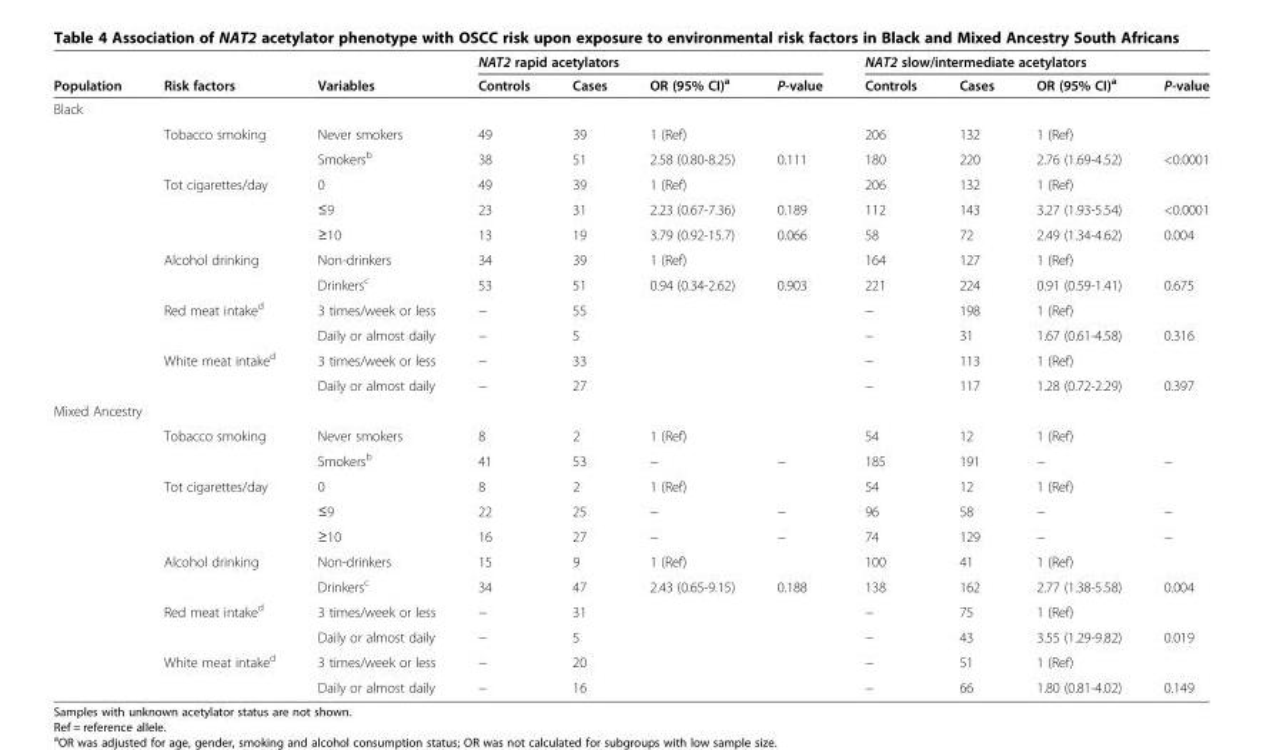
<table><thead><tr><td rowspan="2">Population</td><td rowspan="2">Risk factors</td><td rowspan="2">Variables</td><td colspan="4">NAT2 rapid acetylators</td><td colspan="4">NAT2 slow/intermediate acetylators</td></tr><tr><td>Controls</td><td>Cases</td><td>OR (95% CI)<sup>a</sup></td><td>P-value</td><td>Controls</td><td>Cases</td><td>OR (95% CI)<sup>a</sup></td><td>P-value</td></tr></thead><tbody><tr><td colspan="11">Black</td></tr><tr><td></td><td>Tobacco smoking</td><td>Never smokers</td><td>49</td><td>39</td><td>1 (Ref)</td><td></td><td>206</td><td>132</td><td>1 (Ref)</td><td></td></tr><tr><td></td><td></td><td>Smokers<sup>b</sup></td><td>38</td><td>51</td><td>2.58 (0.80-8.25)</td><td>0.111</td><td>180</td><td>220</td><td>2.76 (1.69-4.52)</td><td>&lt;0.0001</td></tr><tr><td></td><td>Tot cigarettes/day</td><td>0</td><td>49</td><td>39</td><td>1 (Ref)</td><td></td><td>206</td><td>132</td><td>1 (Ref)</td><td></td></tr><tr><td></td><td></td><td>≤9</td><td>23</td><td>31</td><td>2.23 (0.67-7.36)</td><td>0.189</td><td>112</td><td>143</td><td>3.27 (1.93-5.54)</td><td>&lt;0.0001</td></tr><tr><td></td><td></td><td>≥10</td><td>13</td><td>19</td><td>3.79 (0.92-15.7)</td><td>0.066</td><td>58</td><td>72</td><td>2.49 (1.34-4.62)</td><td>0.004</td></tr><tr><td></td><td>Alcohol drinking</td><td>Non-drinkers</td><td>34</td><td>39</td><td>1 (Ref)</td><td></td><td>164</td><td>127</td><td>1 (Ref)</td><td></td></tr><tr><td></td><td></td><td>Drinkers<sup>c</sup></td><td>53</td><td>51</td><td>0.94 (0.34-2.62)</td><td>0.903</td><td>221</td><td>224</td><td>0.91 (0.59-1.41)</td><td>0.675</td></tr><tr><td></td><td>Red meat intake<sup>d</sup></td><td>3 times/week or less</td><td>−</td><td>55</td><td></td><td></td><td>−</td><td>198</td><td>1 (Ref)</td><td></td></tr><tr><td></td><td></td><td>Daily or almost daily</td><td>−</td><td>5</td><td></td><td></td><td>−</td><td>31</td><td>1.67 (0.61-4.58)</td><td>0.316</td></tr><tr><td></td><td>White meat intake<sup>d</sup></td><td>3 times/week or less</td><td>−</td><td>33</td><td></td><td></td><td>−</td><td>113</td><td>1 (Ref)</td><td></td></tr><tr><td></td><td></td><td>Daily or almost daily</td><td>−</td><td>27</td><td></td><td></td><td>−</td><td>117</td><td>1.28 (0.72-2.29)</td><td>0.397</td></tr><tr><td colspan="11">Mixed Ancestry</td></tr><tr><td></td><td>Tobacco smoking</td><td>Never smokers</td><td>8</td><td>2</td><td>1 (Ref)</td><td></td><td>54</td><td>12</td><td>1 (Ref)</td><td></td></tr><tr><td></td><td></td><td>Smokers<sup>b</sup></td><td>41</td><td>53</td><td>−</td><td>−</td><td>185</td><td>191</td><td>−</td><td>−</td></tr><tr><td></td><td>Tot cigarettes/day</td><td>0</td><td>8</td><td>2</td><td>1 (Ref)</td><td></td><td>54</td><td>12</td><td>1 (Ref)</td><td></td></tr><tr><td></td><td></td><td>≤9</td><td>22</td><td>25</td><td>−</td><td>−</td><td>96</td><td>58</td><td>−</td><td>−</td></tr><tr><td></td><td></td><td>≥10</td><td>16</td><td>27</td><td>−</td><td>−</td><td>74</td><td>129</td><td>−</td><td>−</td></tr><tr><td></td><td>Alcohol drinking</td><td>Non-drinkers</td><td>15</td><td>9</td><td>1 (Ref)</td><td></td><td>100</td><td>41</td><td>1 (Ref)</td><td></td></tr><tr><td></td><td></td><td>Drinkers<sup>c</sup></td><td>34</td><td>47</td><td>2.43 (0.65-9.15)</td><td>0.188</td><td>138</td><td>162</td><td>2.77 (1.38-5.58)</td><td>0.004</td></tr><tr><td></td><td>Red meat intake<sup>d</sup></td><td>3 times/week or less</td><td>−</td><td>31</td><td></td><td></td><td>−</td><td>75</td><td>1 (Ref)</td><td></td></tr><tr><td></td><td></td><td>Daily or almost daily</td><td>−</td><td>5</td><td></td><td></td><td>−</td><td>43</td><td>3.55 (1.29-9.82)</td><td>0.019</td></tr><tr><td></td><td>White meat intake<sup>d</sup></td><td>3 times/week or less</td><td>−</td><td>20</td><td></td><td></td><td>−</td><td>51</td><td>1 (Ref)</td><td></td></tr><tr><td></td><td></td><td>Daily or almost daily</td><td>−</td><td>16</td><td></td><td></td><td>−</td><td>66</td><td>1.80 (0.81-4.02)</td><td>0.149</td></tr></tbody></table>